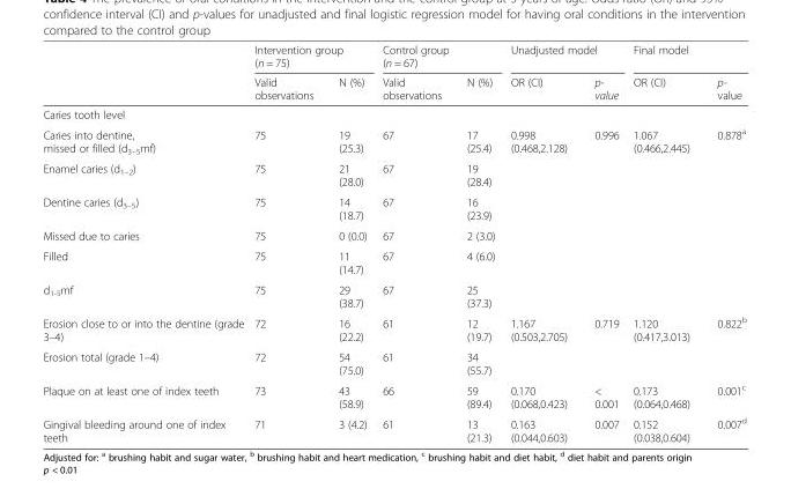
<table><thead><tr><td rowspan="2"></td><td colspan="2">Intervention group (n = 75)</td><td colspan="2">Control group (n = 67)</td><td colspan="2">Unadjusted model</td><td colspan="2">Final model</td></tr><tr><td>Valid observations</td><td>N (%)</td><td>Valid observations</td><td>N (%)</td><td>OR (CI)</td><td>p- value</td><td>OR (CI)</td><td>p- value</td></tr></thead><tbody><tr><td colspan="9">Caries tooth level</td></tr><tr><td>Caries into dentine, missed or filled (d<sub>3–5</sub>mf)</td><td>75</td><td>19 (25.3)</td><td>67</td><td>17 (25.4)</td><td>0.998 (0.468,2.128)</td><td>0.996</td><td>1.067 (0.466,2.445)</td><td>0.878<sup>a</sup></td></tr><tr><td>Enamel caries (d<sub>1–2</sub>)</td><td>75</td><td>21 (28.0)</td><td>67</td><td>19 (28.4)</td><td></td><td></td><td></td><td></td></tr><tr><td>Dentine caries (d<sub>3–5</sub>)</td><td>75</td><td>14 (18.7)</td><td>67</td><td>16 (23.9)</td><td></td><td></td><td></td><td></td></tr><tr><td>Missed due to caries</td><td>75</td><td>0 (0.0)</td><td>67</td><td>2 (3.0)</td><td></td><td></td><td></td><td></td></tr><tr><td>Filled</td><td>75</td><td>11 (14.7)</td><td>67</td><td>4 (6.0)</td><td></td><td></td><td></td><td></td></tr><tr><td>d<sub>1-5</sub>mf</td><td>75</td><td>29 (38.7)</td><td>67</td><td>25 (37.3)</td><td></td><td></td><td></td><td></td></tr><tr><td>Erosion close to or into the dentine (grade 3–4)</td><td>72</td><td>16 (22.2)</td><td>61</td><td>12 (19.7)</td><td>1.167 (0.503,2.705)</td><td>0.719</td><td>1.120 (0.417,3.013)</td><td>0.822<sup>b</sup></td></tr><tr><td>Erosion total (grade 1–4)</td><td>72</td><td>54 (75.0)</td><td>61</td><td>34 (55.7)</td><td></td><td></td><td></td><td></td></tr><tr><td>Plaque on at least one of index teeth</td><td>73</td><td>43 (58.9)</td><td>66</td><td>59 (89.4)</td><td>0.170 (0.068,0.423)</td><td>&lt; 0.001</td><td>0.173 (0.064,0.468)</td><td>0.001<sup>c</sup></td></tr><tr><td>Gingival bleeding around one of index teeth</td><td>71</td><td>3 (4.2)</td><td>61</td><td>13 (21.3)</td><td>0.163 (0.044,0.603)</td><td>0.007</td><td>0.152 (0.038,0.604)</td><td>0.007<sup>d</sup></td></tr></tbody></table>